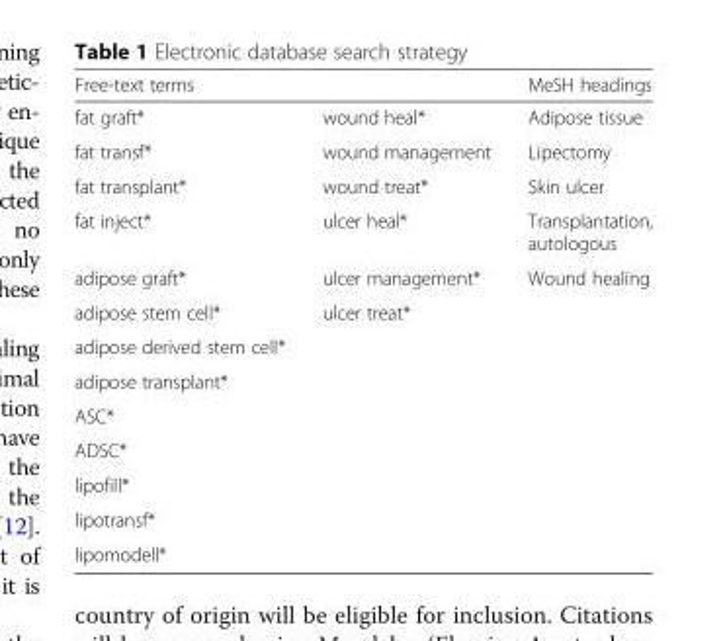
<table><thead><tr><td colspan="2">Free-text terms</td><td rowspan="2">MeSH headings Adipose tissue</td></tr><tr><td>fat graft*</td><td>wound heal*</td></tr></thead><tbody><tr><td>fat transf*</td><td>wound management</td><td>Lipectomy</td></tr><tr><td>fat transplant*</td><td>wound treat*</td><td>Skin ulcer</td></tr><tr><td>fat inject*</td><td>ulcer heal*</td><td>Transplantation, autologous</td></tr><tr><td>adipose graft*</td><td>ulcer management*</td><td>Wound healing</td></tr><tr><td>adipose stem cell*</td><td>ulcer treat*</td><td></td></tr><tr><td colspan="3">adipose derived stem cell*</td></tr><tr><td colspan="3">adipose transplant*</td></tr><tr><td colspan="3">ASC*</td></tr><tr><td colspan="3">ADSC*</td></tr><tr><td colspan="3">lipofill*</td></tr><tr><td colspan="3">lipotransf*</td></tr><tr><td>lipomodell*</td><td></td><td></td></tr></tbody></table>